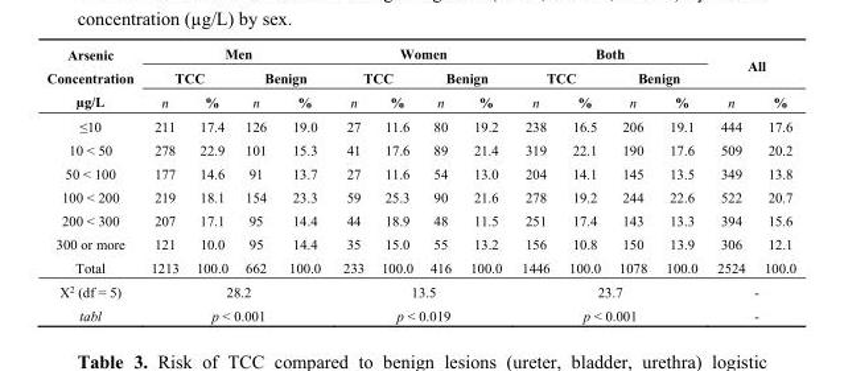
<table><thead><tr><td rowspan="3">Arsenic Concentration µg/L</td><td colspan="4">Men</td><td colspan="4">Women</td><td colspan="4">Both</td><td rowspan="2" colspan="2">All</td></tr><tr><td colspan="2">TCC</td><td colspan="2">Benign</td><td colspan="2">TCC</td><td colspan="2">Benign</td><td colspan="2">TCC</td><td colspan="2">Benign</td></tr><tr><td>n</td><td>%</td><td>n</td><td>%</td><td>n</td><td>%</td><td>n</td><td>%</td><td>n</td><td>%</td><td>n</td><td>%</td><td>n</td><td>%</td></tr></thead><tbody><tr><td>≤10</td><td>211</td><td>17.4</td><td>126</td><td>19.0</td><td>27</td><td>11.6</td><td>80</td><td>19.2</td><td>238</td><td>16.5</td><td>206</td><td>19.1</td><td>444</td><td>17.6</td></tr><tr><td>10 &lt; 50</td><td>278</td><td>22.9</td><td>101</td><td>15.3</td><td>41</td><td>17.6</td><td>89</td><td>21.4</td><td>319</td><td>22.1</td><td>190</td><td>17.6</td><td>509</td><td>20.2</td></tr><tr><td>50 &lt; 100</td><td>177</td><td>14.6</td><td>91</td><td>13.7</td><td>27</td><td>11.6</td><td>54</td><td>13.0</td><td>204</td><td>14.1</td><td>145</td><td>13.5</td><td>349</td><td>13.8</td></tr><tr><td>100 &lt; 200</td><td>219</td><td>18.1</td><td>154</td><td>23.3</td><td>59</td><td>25.3</td><td>90</td><td>21.6</td><td>278</td><td>19.2</td><td>244</td><td>22.6</td><td>522</td><td>20.7</td></tr><tr><td>200 &lt; 300</td><td>207</td><td>17.1</td><td>95</td><td>14.4</td><td>44</td><td>18.9</td><td>48</td><td>11.5</td><td>251</td><td>17.4</td><td>143</td><td>13.3</td><td>394</td><td>15.6</td></tr><tr><td>300 or more</td><td>121</td><td>10.0</td><td>95</td><td>14.4</td><td>35</td><td>15.0</td><td>55</td><td>13.2</td><td>156</td><td>10.8</td><td>150</td><td>13.9</td><td>306</td><td>12.1</td></tr><tr><td>Total</td><td>1213</td><td>100.0</td><td>662</td><td>100.0</td><td>233</td><td>100.0</td><td>416</td><td>100.0</td><td>1446</td><td>100.0</td><td>1078</td><td>100.0</td><td>2524</td><td>100.0</td></tr><tr><td>X<sup>2</sup> (df = 5)</td><td colspan="4">28.2</td><td colspan="4">13.5</td><td colspan="4">23.7</td><td colspan="2">-</td></tr><tr><td>tabl</td><td colspan="4">p &lt; 0.001</td><td colspan="4">p &lt; 0.019</td><td colspan="4">p &lt; 0.001</td><td colspan="2">-</td></tr></tbody></table>